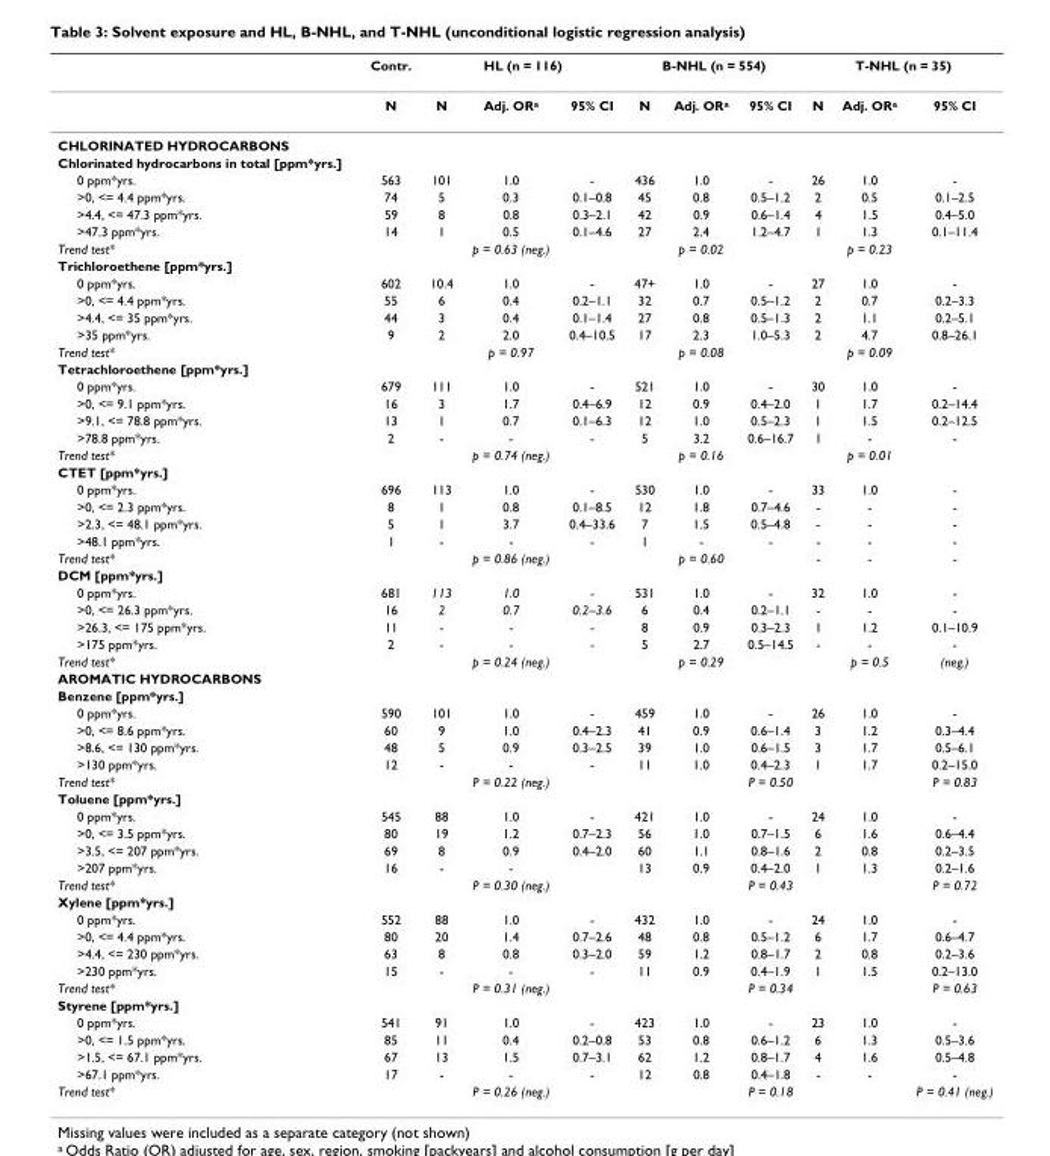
<table><thead><tr><td rowspan="2"></td><td rowspan="2">Contr. N</td><td colspan="3">HL (n = 116)</td><td colspan="3">B-NHL (n = 554)</td><td colspan="3">T-NHL (n = 35)</td></tr><tr><td>N</td><td>Adj. OR<sup>a</sup></td><td>95% CI</td><td>N</td><td>Adj. OR<sup>a</sup></td><td>95% CI</td><td>N</td><td>Adj. OR<sup>a</sup></td><td>95% CI</td></tr></thead><tbody><tr><td colspan="11">CHLORINATED HYDROCARBONS</td></tr><tr><td colspan="11">Chlorinated hydrocarbons in total [ppm*yrs.]</td></tr><tr><td>0 ppm*yrs.</td><td>563</td><td>101</td><td>1.0</td><td>-</td><td>436</td><td>1.0</td><td>-</td><td>26</td><td>1.0</td><td>-</td></tr><tr><td>&gt;0, &lt;= 4.4 ppm*yrs.</td><td>74</td><td>5</td><td>0.3</td><td>0.1–0.8</td><td>45</td><td>0.8</td><td>0.5–1.2</td><td>2</td><td>0.5</td><td>0.1–2.5</td></tr><tr><td>&gt;4.4, &lt;= 47.3 ppm*yrs.</td><td>59</td><td>8</td><td>0.8</td><td>0.3–2.1</td><td>42</td><td>0.9</td><td>0.6–1.4</td><td>4</td><td>1.5</td><td>0.4–5.0</td></tr><tr><td>&gt;47.3 ppm*yrs.</td><td>14</td><td>1</td><td>0.5</td><td>0.1–4.6</td><td>27</td><td>2.4</td><td>1.2–4.7</td><td>1</td><td>1.3</td><td>0.1–11.4</td></tr><tr><td>Trend test*</td><td></td><td></td><td>p = 0.63 (neg.)</td><td></td><td></td><td>p = 0.02</td><td></td><td></td><td>p = 0.23</td><td></td></tr><tr><td colspan="11">Trichloroethene [ppm*yrs.]</td></tr><tr><td>0 ppm*yrs.</td><td>602</td><td>10.4</td><td>1.0</td><td>-</td><td>47+</td><td>1.0</td><td>-</td><td>27</td><td>1.0</td><td>-</td></tr><tr><td>&gt;0, &lt;= 4.4 ppm*yrs.</td><td>55</td><td>6</td><td>0.4</td><td>0.2–1.1</td><td>32</td><td>0.7</td><td>0.5–1.2</td><td>2</td><td>0.7</td><td>0.2–3.3</td></tr><tr><td>&gt;4.4, &lt;= 35 ppm*yrs.</td><td>44</td><td>3</td><td>0.4</td><td>0.1–1.4</td><td>27</td><td>0.8</td><td>0.5–1.3</td><td>2</td><td>1.1</td><td>0.2–5.1</td></tr><tr><td>&gt;35 ppm*yrs.</td><td>9</td><td>2</td><td>2.0</td><td>0.4–10.5</td><td>17</td><td>2.3</td><td>1.0–5.3</td><td>2</td><td>4.7</td><td>0.8–26.1</td></tr><tr><td>Trend test*</td><td></td><td></td><td>p = 0.97</td><td></td><td></td><td>p = 0.08</td><td></td><td></td><td>p = 0.09</td><td></td></tr><tr><td colspan="11">Tetrachloroethene [ppm*yrs.]</td></tr><tr><td>0 ppm*yrs.</td><td>679</td><td>111</td><td>1.0</td><td>-</td><td>521</td><td>1.0</td><td>-</td><td>30</td><td>1.0</td><td>-</td></tr><tr><td>&gt;0, &lt;= 9.1 ppm*yrs.</td><td>16</td><td>3</td><td>1.7</td><td>0.4–6.9</td><td>12</td><td>0.9</td><td>0.4–2.0</td><td>1</td><td>1.7</td><td>0.2–14.4</td></tr><tr><td>&gt;9.1, &lt;= 78.8 ppm*yrs.</td><td>13</td><td>1</td><td>0.7</td><td>0.1–6.3</td><td>12</td><td>1.0</td><td>0.5–2.3</td><td>1</td><td>1.5</td><td>0.2–12.5</td></tr><tr><td>&gt;78.8 ppm*yrs.</td><td>2</td><td>-</td><td>-</td><td>-</td><td>5</td><td>3.2</td><td>0.6–16.7</td><td>1</td><td>-</td><td>-</td></tr><tr><td>Trend test*</td><td></td><td></td><td>p = 0.74 (neg.)</td><td></td><td></td><td>p = 0.16</td><td></td><td></td><td>p = 0.01</td><td></td></tr><tr><td colspan="11">CTET [ppm*yrs.]</td></tr><tr><td>0 ppm*yrs.</td><td>696</td><td>113</td><td>1.0</td><td>-</td><td>530</td><td>1.0</td><td>-</td><td>33</td><td>1.0</td><td>-</td></tr><tr><td>&gt;0, &lt;= 2.3 ppm*yrs.</td><td>8</td><td>1</td><td>0.8</td><td>0.1–8.5</td><td>12</td><td>1.8</td><td>0.7–4.6</td><td>-</td><td>-</td><td>-</td></tr><tr><td>&gt;2.3, &lt;= 48.1 ppm*yrs.</td><td>5</td><td>1</td><td>3.7</td><td>0.4–33.6</td><td>7</td><td>1.5</td><td>0.5–4.8</td><td>-</td><td>-</td><td>-</td></tr><tr><td>&gt;48.1 ppm*yrs.</td><td>1</td><td>-</td><td>-</td><td>-</td><td>1</td><td>-</td><td>-</td><td>-</td><td>-</td><td>-</td></tr><tr><td>Trend test*</td><td></td><td></td><td>p = 0.86 (neg.)</td><td></td><td></td><td>p = 0.60</td><td></td><td>-</td><td>-</td><td>-</td></tr><tr><td colspan="11">DCM [ppm*yrs.]</td></tr><tr><td>0 ppm*yrs.</td><td>681</td><td>113</td><td>1.0</td><td>-</td><td>531</td><td>1.0</td><td>-</td><td>32</td><td>1.0</td><td>-</td></tr><tr><td>&gt;0, &lt;= 26.3 ppm*yrs.</td><td>16</td><td>2</td><td>0.7</td><td>0.2–3.6</td><td>6</td><td>0.4</td><td>0.2–1.1</td><td>-</td><td>-</td><td>-</td></tr><tr><td>&gt;26.3, &lt;= 175 ppm*yrs.</td><td>11</td><td>-</td><td>-</td><td>-</td><td>8</td><td>0.9</td><td>0.3–2.3</td><td>1</td><td>1.2</td><td>0.1–10.9</td></tr><tr><td>&gt;175 ppm*yrs.</td><td>2</td><td>-</td><td>-</td><td>-</td><td>5</td><td>2.7</td><td>0.5–14.5</td><td>-</td><td>-</td><td>-</td></tr><tr><td>Trend test*</td><td></td><td></td><td>p = 0.24 (neg.)</td><td></td><td></td><td>p = 0.29</td><td></td><td></td><td>p = 0.5</td><td>(neg.)</td></tr><tr><td colspan="11">AROMATIC HYDROCARBONS</td></tr><tr><td colspan="11">Benzene [ppm*yrs.]</td></tr><tr><td>0 ppm*yrs.</td><td>590</td><td>101</td><td>1.0</td><td>-</td><td>459</td><td>1.0</td><td>-</td><td>26</td><td>1.0</td><td>-</td></tr><tr><td>&gt;0, &lt;= 8.6 ppm*yrs.</td><td>60</td><td>9</td><td>1.0</td><td>0.4–2.3</td><td>41</td><td>0.9</td><td>0.6–1.4</td><td>3</td><td>1.2</td><td>0.3–4.4</td></tr><tr><td>&gt;8.6, &lt;= 130 ppm*yrs.</td><td>48</td><td>5</td><td>0.9</td><td>0.3–2.5</td><td>39</td><td>1.0</td><td>0.6–1.5</td><td>3</td><td>1.7</td><td>0.5–6.1</td></tr><tr><td>&gt;130 ppm*yrs.</td><td>12</td><td>-</td><td>-</td><td>-</td><td>11</td><td>1.0</td><td>0.4–2.3</td><td>1</td><td>1.7</td><td>0.2–15.0</td></tr><tr><td>Trend test*</td><td></td><td></td><td>P = 0.22 (neg.)</td><td></td><td></td><td></td><td>P = 0.50</td><td></td><td></td><td>P = 0.83</td></tr><tr><td colspan="11">Toluene [ppm*yrs.]</td></tr><tr><td>0 ppm*yrs.</td><td>545</td><td>88</td><td>1.0</td><td>-</td><td>421</td><td>1.0</td><td>-</td><td>24</td><td>1.0</td><td>-</td></tr><tr><td>&gt;0, &lt;= 3.5 ppm*yrs.</td><td>80</td><td>19</td><td>1.2</td><td>0.7–2.3</td><td>56</td><td>1.0</td><td>0.7–1.5</td><td>6</td><td>1.6</td><td>0.6–4.4</td></tr><tr><td>&gt;3.5, &lt;= 207 ppm*yrs.</td><td>69</td><td>8</td><td>0.9</td><td>0.4–2.0</td><td>60</td><td>1.1</td><td>0.8–1.6</td><td>2</td><td>0.8</td><td>0.2–3.5</td></tr><tr><td>&gt;207 ppm*yrs.</td><td>16</td><td>-</td><td>-</td><td></td><td>13</td><td>0.9</td><td>0.4–2.0</td><td>1</td><td>1.3</td><td>0.2–1.6</td></tr><tr><td>Trend test*</td><td></td><td></td><td>P = 0.30 (neg.)</td><td></td><td></td><td></td><td>P = 0.43</td><td></td><td></td><td>P = 0.72</td></tr><tr><td colspan="11">Xylene [ppm*yrs.]</td></tr><tr><td>0 ppm*yrs.</td><td>552</td><td>88</td><td>1.0</td><td>-</td><td>432</td><td>1.0</td><td>-</td><td>24</td><td>1.0</td><td>-</td></tr><tr><td>&gt;0, &lt;= 4.4 ppm*yrs.</td><td>80</td><td>20</td><td>1.4</td><td>0.7–2.6</td><td>48</td><td>0.8</td><td>0.5–1.2</td><td>6</td><td>1.7</td><td>0.6–4.7</td></tr><tr><td>&gt;4.4, &lt;= 230 ppm*yrs.</td><td>63</td><td>8</td><td>0.8</td><td>0.3–2.0</td><td>59</td><td>1.2</td><td>0.8–1.7</td><td>2</td><td>0.8</td><td>0.2–3.6</td></tr><tr><td>&gt;230 ppm*yrs.</td><td>15</td><td>-</td><td>-</td><td>-</td><td>11</td><td>0.9</td><td>0.4–1.9</td><td>1</td><td>1.5</td><td>0.2–13.0</td></tr><tr><td>Trend test*</td><td></td><td></td><td>P = 0.31 (neg.)</td><td></td><td></td><td></td><td>P = 0.34</td><td></td><td></td><td>P = 0.63</td></tr><tr><td colspan="11">Styrene [ppm*yrs.]</td></tr><tr><td>0 ppm*yrs.</td><td>541</td><td>91</td><td>1.0</td><td>-</td><td>423</td><td>1.0</td><td>-</td><td>23</td><td>1.0</td><td>-</td></tr><tr><td>&gt;0, &lt;= 1.5 ppm*yrs.</td><td>85</td><td>11</td><td>0.4</td><td>0.2–0.8</td><td>53</td><td>0.8</td><td>0.6–1.2</td><td>6</td><td>1.3</td><td>0.5–3.6</td></tr><tr><td>&gt;1.5, &lt;= 67.1 ppm*yrs.</td><td>67</td><td>13</td><td>1.5</td><td>0.7–3.1</td><td>62</td><td>1.2</td><td>0.8–1.7</td><td>4</td><td>1.6</td><td>0.5–4.8</td></tr><tr><td>&gt;67.1 ppm*yrs.</td><td>17</td><td>-</td><td>-</td><td>-</td><td>12</td><td>0.8</td><td>0.4–1.8</td><td>-</td><td>-</td><td>-</td></tr><tr><td>Trend test*</td><td></td><td></td><td>P = 0.26 (neg.)</td><td></td><td></td><td></td><td>P = 0.18</td><td></td><td></td><td>P = 0.41 (neg.)</td></tr></tbody></table>